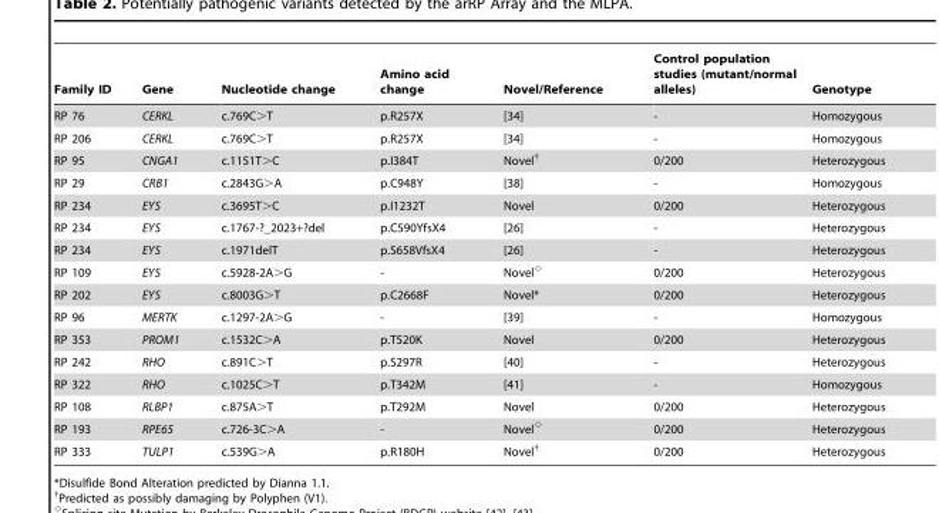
<table><thead><tr><td>Family ID</td><td>Gene</td><td>Nucleotide change</td><td>Amino acid change</td><td>Novel/Reference</td><td>Control population studies (mutant/normal alleles)</td><td>Genotype</td></tr></thead><tbody><tr><td>RP 76</td><td>CERKL</td><td>c.769C&gt;T</td><td>p.R257X</td><td>[34]</td><td>-</td><td>Homozygous</td></tr><tr><td>RP 206</td><td>CERKL</td><td>c.769C&gt;T</td><td>p.R257X</td><td>[34]</td><td>-</td><td>Homozygous</td></tr><tr><td>RP 95</td><td>CNGA1</td><td>c.1151T&gt;C</td><td>p.I384T</td><td>Novel†</td><td>0/200</td><td>Heterozygous</td></tr><tr><td>RP 29</td><td>CRB1</td><td>c.2843G&gt;A</td><td>p.C948Y</td><td>[38]</td><td>-</td><td>Homozygous</td></tr><tr><td>RP 234</td><td>EYS</td><td>c.3695T&gt;C</td><td>p.I1232T</td><td>Novel</td><td>0/200</td><td>Heterozygous</td></tr><tr><td>RP 234</td><td>EYS</td><td>c.1767-?_2023+?del</td><td>p.C590YfsX4</td><td>[26]</td><td>-</td><td>Heterozygous</td></tr><tr><td>RP 234</td><td>EYS</td><td>c.1971delT</td><td>p.S658VfsX4</td><td>[26]</td><td>-</td><td>Heterozygous</td></tr><tr><td>RP 109</td><td>EYS</td><td>c.5928-2A&gt;G</td><td>-</td><td>Novel◊</td><td>0/200</td><td>Heterozygous</td></tr><tr><td>RP 202</td><td>EYS</td><td>c.8003G&gt;T</td><td>p.C2668F</td><td>Novel*</td><td>0/200</td><td>Heterozygous</td></tr><tr><td>RP 96</td><td>MERTK</td><td>c.1297-2A&gt;G</td><td>-</td><td>[39]</td><td>-</td><td>Homozygous</td></tr><tr><td>RP 353</td><td>PROM1</td><td>c.1532C&gt;A</td><td>p.T520K</td><td>Novel</td><td>0/200</td><td>Heterozygous</td></tr><tr><td>RP 242</td><td>RHO</td><td>c.891C&gt;T</td><td>p.S297R</td><td>[40]</td><td>-</td><td>Heterozygous</td></tr><tr><td>RP 322</td><td>RHO</td><td>c.1025C&gt;T</td><td>p.T342M</td><td>[41]</td><td>-</td><td>Homozygous</td></tr><tr><td>RP 108</td><td>RLBP1</td><td>c.875A&gt;T</td><td>p.T292M</td><td>Novel</td><td>0/200</td><td>Heterozygous</td></tr><tr><td>RP 193</td><td>RPE65</td><td>c.726-3C&gt;A</td><td>-</td><td>Novel◊</td><td>0/200</td><td>Heterozygous</td></tr><tr><td>RP 333</td><td>TULP1</td><td>c.539G&gt;A</td><td>p.R180H</td><td>Novel†</td><td>0/200</td><td>Heterozygous</td></tr></tbody></table>